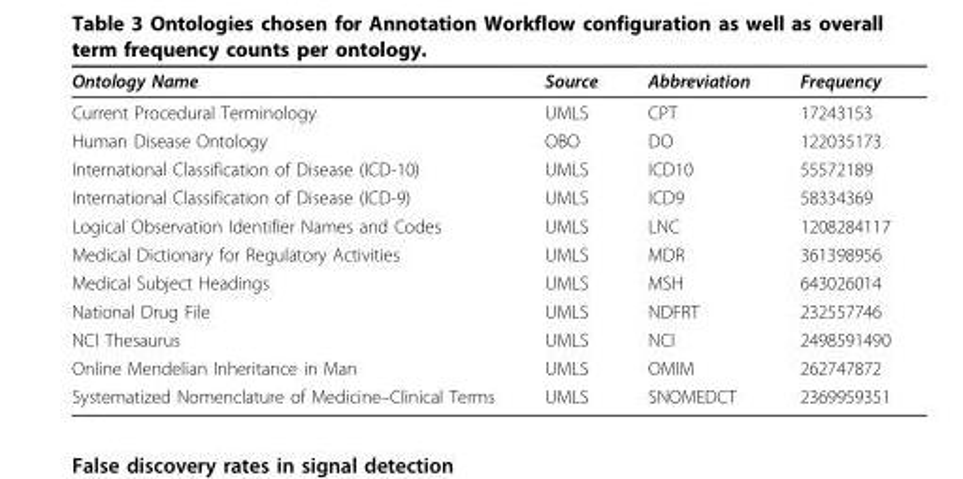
<table><thead><tr><td>Ontology Name</td><td>Source</td><td>Abbreviation</td><td>Frequency</td></tr></thead><tbody><tr><td>Current Procedural Terminology</td><td>UMLS</td><td>CPT</td><td>17243153</td></tr><tr><td>Human Disease Ontology</td><td>OBO</td><td>DO</td><td>122035173</td></tr><tr><td>International Classification of Disease (ICD-10)</td><td>UMLS</td><td>ICD10</td><td>55572189</td></tr><tr><td>International Classification of Disease (ICD-9)</td><td>UMLS</td><td>ICD9</td><td>58334369</td></tr><tr><td>Logical Observation Identifier Names and Codes</td><td>UMLS</td><td>LNC</td><td>1208284117</td></tr><tr><td>Medical Dictionary for Regulatory Activities</td><td>UMLS</td><td>MDR</td><td>361398956</td></tr><tr><td>Medical Subject Headings</td><td>UMLS</td><td>MSH</td><td>643026014</td></tr><tr><td>National Drug File</td><td>UMLS</td><td>NDFRT</td><td>232557746</td></tr><tr><td>NCI Thesaurus</td><td>UMLS</td><td>NCI</td><td>2498591490</td></tr><tr><td>Online Mendelian Inheritance in Man</td><td>UMLS</td><td>OMIM</td><td>262747872</td></tr><tr><td>Systematized Nomenclature of Medicine–Clinical Terms</td><td>UMLS</td><td>SNOMEDCT</td><td>2369959351</td></tr></tbody></table>